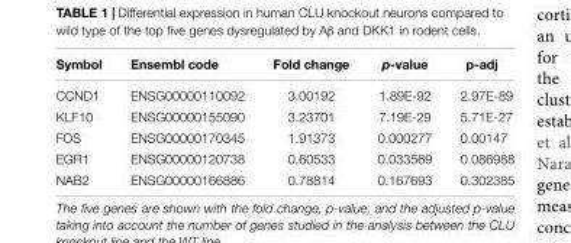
<table><thead><tr><td>Symbol</td><td>Ensembl code</td><td>Fold change</td><td>p-value</td><td>p-adj</td></tr></thead><tbody><tr><td>CCND1</td><td>ENSG00000110092</td><td>3.00192</td><td>1.89E-92</td><td>2.97E-89</td></tr><tr><td>KLF10</td><td>ENSG00000155090</td><td>3.23701</td><td>7.19E-29</td><td>5.71E-27</td></tr><tr><td>FOS</td><td>ENSG00000170345</td><td>1.91373</td><td>0.000277</td><td>0.00147</td></tr><tr><td>EGR1</td><td>ENSG00000120738</td><td>0.60533</td><td>0.033569</td><td>0.086988</td></tr><tr><td>NAB2</td><td>ENSG00000166886</td><td>0.78814</td><td>0.167693</td><td>0.302385</td></tr></tbody></table>